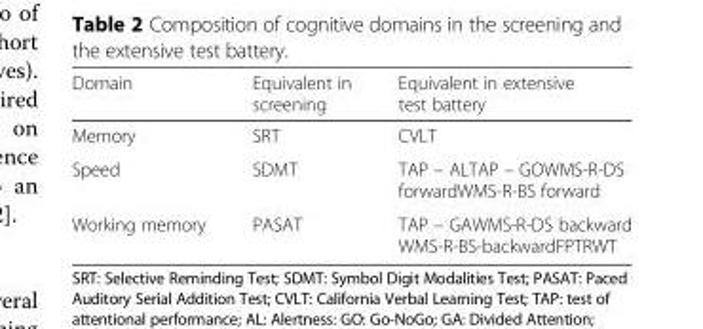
<table><thead><tr><td>Domain</td><td>Equivalent in screening</td><td>Equivalent in extensive test battery</td></tr></thead><tbody><tr><td>Memory</td><td>SRT</td><td>CVLT</td></tr><tr><td>Speed</td><td>SDMT</td><td>TAP – ALTAP – GOWMS-R-DS forwardWMS-R-BS forward</td></tr><tr><td>Working memory</td><td>PASAT</td><td>TAP – GAWMS-R-DS backward WMS-R-BS-backwardFPTRWT</td></tr></tbody></table>